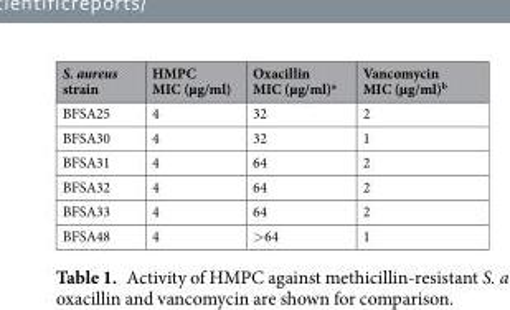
<table><thead><tr><td>S. aureus strain</td><td>HMPC MIC (µg/ml)</td><td>Oxacillin MIC (µg/ml)<sup>a</sup></td><td>Vancomycin MIC (µg/ml)<sup>b</sup></td></tr></thead><tbody><tr><td>BFSA25</td><td>4</td><td>32</td><td>2</td></tr><tr><td>BFSA30</td><td>4</td><td>32</td><td>1</td></tr><tr><td>BFSA31</td><td>4</td><td>64</td><td>2</td></tr><tr><td>BFSA32</td><td>4</td><td>64</td><td>2</td></tr><tr><td>BFSA33</td><td>4</td><td>64</td><td>2</td></tr><tr><td>BFSA48</td><td>4</td><td>&gt;64</td><td>1</td></tr></tbody></table>